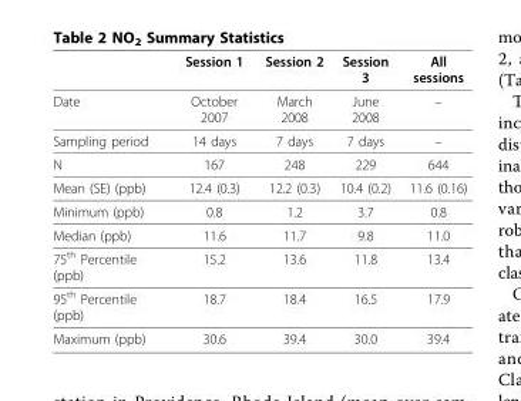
<table><thead><tr><td></td><td>Session 1</td><td>Session 2</td><td>Session 3</td><td>All sessions</td></tr></thead><tbody><tr><td>Date</td><td>October 2007</td><td>March 2008</td><td>June 2008</td><td>–</td></tr><tr><td>Sampling period</td><td>14 days</td><td>7 days</td><td>7 days</td><td>–</td></tr><tr><td>N</td><td>167</td><td>248</td><td>229</td><td>644</td></tr><tr><td>Mean (SE) (ppb)</td><td>12.4 (0.3)</td><td>12.2 (0.3)</td><td>10.4 (0.2)</td><td>11.6 (0.16)</td></tr><tr><td>Minimum (ppb)</td><td>0.8</td><td>1.2</td><td>3.7</td><td>0.8</td></tr><tr><td>Median (ppb)</td><td>11.6</td><td>11.7</td><td>9.8</td><td>11.0</td></tr><tr><td>75<sup>th</sup> Percentile (ppb)</td><td>15.2</td><td>13.6</td><td>11.8</td><td>13.4</td></tr><tr><td>95<sup>th</sup> Percentile (ppb)</td><td>18.7</td><td>18.4</td><td>16.5</td><td>17.9</td></tr><tr><td>Maximum (ppb)</td><td>30.6</td><td>39.4</td><td>30.0</td><td>39.4</td></tr></tbody></table>